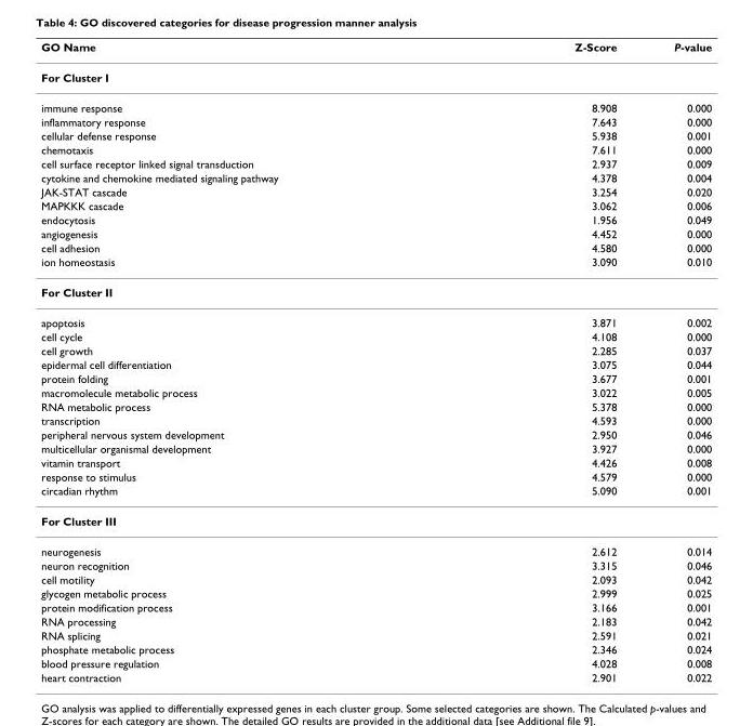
<table><thead><tr><td>GO Name</td><td>Z-Score</td><td>P-value</td></tr></thead><tbody><tr><td colspan="3">For Cluster I</td></tr><tr><td>immune response</td><td>8.908</td><td>0.000</td></tr><tr><td>inflammatory response</td><td>7.643</td><td>0.000</td></tr><tr><td>cellular defense response</td><td>5.938</td><td>0.001</td></tr><tr><td>chemotaxis</td><td>7.611</td><td>0.000</td></tr><tr><td>cell surface receptor linked signal transduction</td><td>2.937</td><td>0.009</td></tr><tr><td>cytokine and chemokine mediated signaling pathway</td><td>4.378</td><td>0.004</td></tr><tr><td>JAK-STAT cascade</td><td>3.254</td><td>0.020</td></tr><tr><td>MAPKKK cascade</td><td>3.062</td><td>0.006</td></tr><tr><td>endocytosis</td><td>1.956</td><td>0.049</td></tr><tr><td>angiogenesis</td><td>4.452</td><td>0.000</td></tr><tr><td>cell adhesion</td><td>4.580</td><td>0.000</td></tr><tr><td>ion homeostasis</td><td>3.090</td><td>0.010</td></tr><tr><td colspan="3">For Cluster II</td></tr><tr><td>apoptosis</td><td>3.871</td><td>0.002</td></tr><tr><td>cell cycle</td><td>4.108</td><td>0.000</td></tr><tr><td>cell growth</td><td>2.285</td><td>0.037</td></tr><tr><td>epidermal cell differentiation</td><td>3.075</td><td>0.044</td></tr><tr><td>protein folding</td><td>3.677</td><td>0.001</td></tr><tr><td>macromolecule metabolic process</td><td>3.022</td><td>0.005</td></tr><tr><td>RNA metabolic process</td><td>5.378</td><td>0.000</td></tr><tr><td>transcription</td><td>4.593</td><td>0.000</td></tr><tr><td>peripheral nervous system development</td><td>2.950</td><td>0.046</td></tr><tr><td>multicellular organismal development</td><td>3.927</td><td>0.000</td></tr><tr><td>vitamin transport</td><td>4.426</td><td>0.008</td></tr><tr><td>response to stimulus</td><td>4.579</td><td>0.000</td></tr><tr><td>circadian rhythm</td><td>5.090</td><td>0.001</td></tr><tr><td colspan="3">For Cluster III</td></tr><tr><td>neurogenesis</td><td>2.612</td><td>0.014</td></tr><tr><td>neuron recognition</td><td>3.315</td><td>0.046</td></tr><tr><td>cell motility</td><td>2.093</td><td>0.042</td></tr><tr><td>glycogen metabolic process</td><td>2.999</td><td>0.025</td></tr><tr><td>protein modification process</td><td>3.166</td><td>0.001</td></tr><tr><td>RNA processing</td><td>2.183</td><td>0.042</td></tr><tr><td>RNA splicing</td><td>2.591</td><td>0.021</td></tr><tr><td>phosphate metabolic process</td><td>2.346</td><td>0.024</td></tr><tr><td>blood pressure regulation</td><td>4.028</td><td>0.008</td></tr><tr><td>heart contraction</td><td>2.901</td><td>0.022</td></tr></tbody></table>